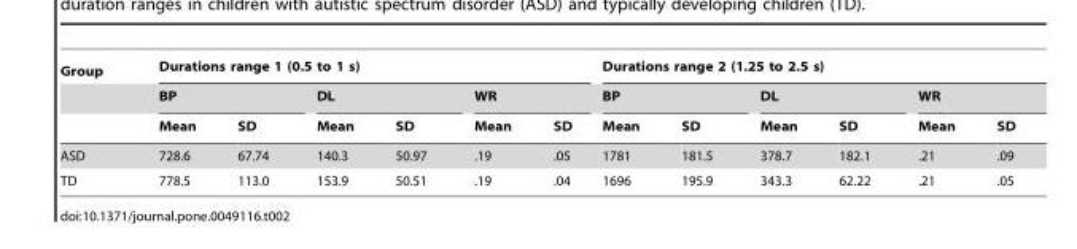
<table><thead><tr><td rowspan="3">Group</td><td colspan="6">Durations range 1 (0.5 to 1 s)</td><td colspan="6">Durations range 2 (1.25 to 2.5 s)</td></tr><tr><td colspan="2">BP</td><td colspan="2">DL</td><td colspan="2">WR</td><td colspan="2">BP</td><td colspan="2">DL</td><td colspan="2">WR</td></tr><tr><td>Mean</td><td>SD</td><td>Mean</td><td>SD</td><td>Mean</td><td>SD</td><td>Mean</td><td>SD</td><td>Mean</td><td>SD</td><td>Mean</td><td>SD</td></tr></thead><tbody><tr><td>ASD</td><td>728.6</td><td>67.74</td><td>140.3</td><td>50.97</td><td>.19</td><td>.05</td><td>1781</td><td>181.5</td><td>378.7</td><td>182.1</td><td>.21</td><td>.09</td></tr><tr><td>TD</td><td>778.5</td><td>113.0</td><td>153.9</td><td>50.51</td><td>.19</td><td>.04</td><td>1696</td><td>195.9</td><td>343.3</td><td>62.22</td><td>.21</td><td>.05</td></tr></tbody></table>